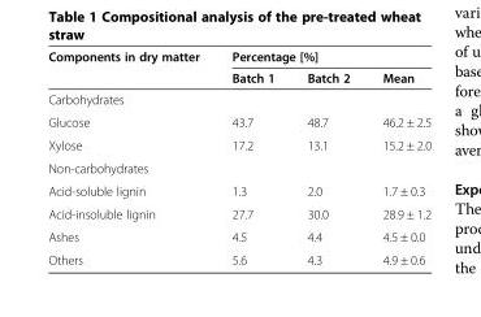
<table><thead><tr><td rowspan="2">Components in dry matter</td><td colspan="3">Percentage [%]</td></tr><tr><td>Batch 1</td><td>Batch 2</td><td>Mean</td></tr></thead><tbody><tr><td colspan="4">Carbohydrates</td></tr><tr><td>Glucose</td><td>43.7</td><td>48.7</td><td>46.2 ± 2.5</td></tr><tr><td>Xylose</td><td>17.2</td><td>13.1</td><td>15.2 ± 2.0</td></tr><tr><td colspan="4">Non-carbohydrates</td></tr><tr><td>Acid-soluble lignin</td><td>1.3</td><td>2.0</td><td>1.7 ± 0.3</td></tr><tr><td>Acid-insoluble lignin</td><td>27.7</td><td>30.0</td><td>28.9 ± 1.2</td></tr><tr><td>Ashes</td><td>4.5</td><td>4.4</td><td>4.5 ± 0.0</td></tr><tr><td>Others</td><td>5.6</td><td>4.3</td><td>4.9 ± 0.6</td></tr></tbody></table>